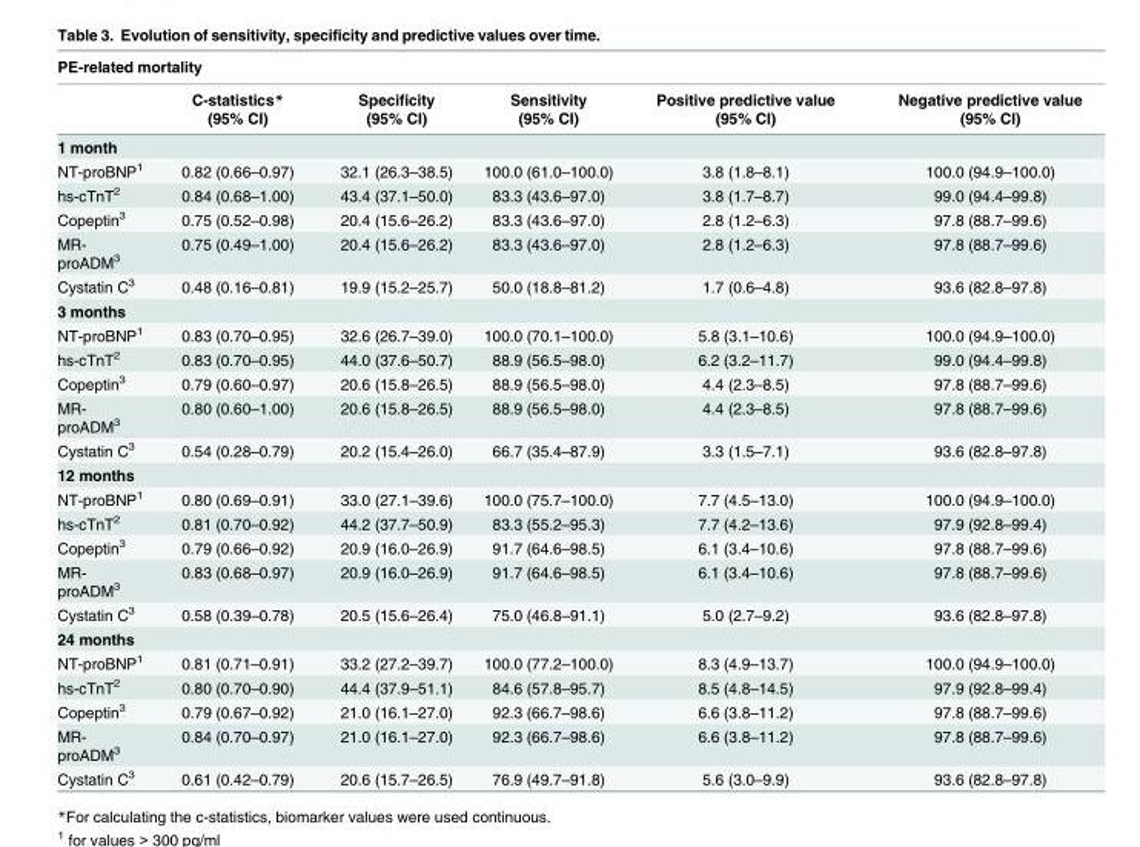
<table><thead><tr><td colspan="6">PE-related mortality</td></tr><tr><td></td><td>C-statistics* (95% CI)</td><td>Specificity (95% CI)</td><td>Sensitivity (95% CI)</td><td>Positive predictive value (95% CI)</td><td>Negative predictive value (95% CI)</td></tr></thead><tbody><tr><td colspan="6">1 month</td></tr><tr><td>NT-proBNP<sup>1</sup></td><td>0.82 (0.66–0.97)</td><td>32.1 (26.3–38.5)</td><td>100.0 (61.0–100.0)</td><td>3.8 (1.8–8.1)</td><td>100.0 (94.9–100.0)</td></tr><tr><td>hs-cTnT<sup>2</sup></td><td>0.84 (0.68–1.00)</td><td>43.4 (37.1–50.0)</td><td>83.3 (43.6–97.0)</td><td>3.8 (1.7–8.7)</td><td>99.0 (94.4–99.8)</td></tr><tr><td>Copeptin<sup>3</sup></td><td>0.75 (0.52–0.98)</td><td>20.4 (15.6–26.2)</td><td>83.3 (43.6–97.0)</td><td>2.8 (1.2–6.3)</td><td>97.8 (88.7–99.6)</td></tr><tr><td>MR- proADM<sup>3</sup></td><td>0.75 (0.49–1.00)</td><td>20.4 (15.6–26.2)</td><td>83.3 (43.6–97.0)</td><td>2.8 (1.2–6.3)</td><td>97.8 (88.7–99.6)</td></tr><tr><td>Cystatin C<sup>3</sup></td><td>0.48 (0.16–0.81)</td><td>19.9 (15.2–25.7)</td><td>50.0 (18.8–81.2)</td><td>1.7 (0.6–4.8)</td><td>93.6 (82.8–97.8)</td></tr><tr><td colspan="6">3 months</td></tr><tr><td>NT-proBNP<sup>1</sup></td><td>0.83 (0.70–0.95)</td><td>32.6 (26.7–39.0)</td><td>100.0 (70.1–100.0)</td><td>5.8 (3.1–10.6)</td><td>100.0 (94.9–100.0)</td></tr><tr><td>hs-cTnT<sup>2</sup></td><td>0.83 (0.70–0.95)</td><td>44.0 (37.6–50.7)</td><td>88.9 (56.5–98.0)</td><td>6.2 (3.2–11.7)</td><td>99.0 (94.4–99.8)</td></tr><tr><td>Copeptin<sup>3</sup></td><td>0.79 (0.60–0.97)</td><td>20.6 (15.8–26.5)</td><td>88.9 (56.5–98.0)</td><td>4.4 (2.3–8.5)</td><td>97.8 (88.7–99.6)</td></tr><tr><td>MR- proADM<sup>3</sup></td><td>0.80 (0.60–1.00)</td><td>20.6 (15.8–26.5)</td><td>88.9 (56.5–98.0)</td><td>4.4 (2.3–8.5)</td><td>97.8 (88.7–99.6)</td></tr><tr><td>Cystatin C<sup>3</sup></td><td>0.54 (0.28–0.79)</td><td>20.2 (15.4–26.0)</td><td>66.7 (35.4–87.9)</td><td>3.3 (1.5–7.1)</td><td>93.6 (82.8–97.8)</td></tr><tr><td colspan="6">12 months</td></tr><tr><td>NT-proBNP<sup>1</sup></td><td>0.80 (0.69–0.91)</td><td>33.0 (27.1–39.6)</td><td>100.0 (75.7–100.0)</td><td>7.7 (4.5–13.0)</td><td>100.0 (94.9–100.0)</td></tr><tr><td>hs-cTnT<sup>2</sup></td><td>0.81 (0.70–0.92)</td><td>44.2 (37.7–50.9)</td><td>83.3 (55.2–95.3)</td><td>7.7 (4.2–13.6)</td><td>97.9 (92.8–99.4)</td></tr><tr><td>Copeptin<sup>3</sup></td><td>0.79 (0.66–0.92)</td><td>20.9 (16.0–26.9)</td><td>91.7 (64.6–98.5)</td><td>6.1 (3.4–10.6)</td><td>97.8 (88.7–99.6)</td></tr><tr><td>MR- proADM<sup>3</sup></td><td>0.83 (0.68–0.97)</td><td>20.9 (16.0–26.9)</td><td>91.7 (64.6–98.5)</td><td>6.1 (3.4–10.6)</td><td>97.8 (88.7–99.6)</td></tr><tr><td>Cystatin C<sup>3</sup></td><td>0.58 (0.39–0.78)</td><td>20.5 (15.6–26.4)</td><td>75.0 (46.8–91.1)</td><td>5.0 (2.7–9.2)</td><td>93.6 (82.8–97.8)</td></tr><tr><td colspan="6">24 months</td></tr><tr><td>NT-proBNP<sup>1</sup></td><td>0.81 (0.71–0.91)</td><td>33.2 (27.2–39.7)</td><td>100.0 (77.2–100.0)</td><td>8.3 (4.9–13.7)</td><td>100.0 (94.9–100.0)</td></tr><tr><td>hs-cTnT<sup>2</sup></td><td>0.80 (0.70–0.90)</td><td>44.4 (37.9–51.1)</td><td>84.6 (57.8–95.7)</td><td>8.5 (4.8–14.5)</td><td>97.9 (92.8–99.4)</td></tr><tr><td>Copeptin<sup>3</sup></td><td>0.79 (0.67–0.92)</td><td>21.0 (16.1–27.0)</td><td>92.3 (66.7–98.6)</td><td>6.6 (3.8–11.2)</td><td>97.8 (88.7–99.6)</td></tr><tr><td>MR- proADM<sup>3</sup></td><td>0.84 (0.70–0.97)</td><td>21.0 (16.1–27.0)</td><td>92.3 (66.7–98.6)</td><td>6.6 (3.8–11.2)</td><td>97.8 (88.7–99.6)</td></tr><tr><td>Cystatin C<sup>3</sup></td><td>0.61 (0.42–0.79)</td><td>20.6 (15.7–26.5)</td><td>76.9 (49.7–91.8)</td><td>5.6 (3.0–9.9)</td><td>93.6 (82.8–97.8)</td></tr></tbody></table>